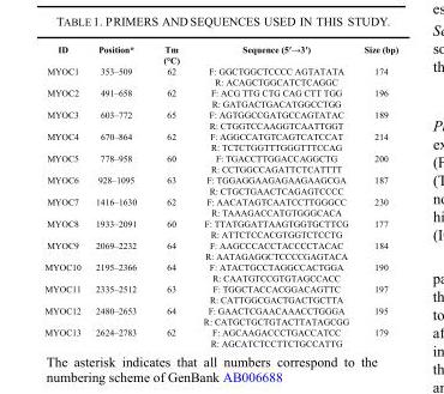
<table><thead><tr><td>ID</td><td>Position*</td><td>Tm (°C)</td><td>Sequence (5′→3′)</td><td>Size (bp)</td></tr></thead><tbody><tr><td rowspan="2">MYOC1</td><td>353–509</td><td>62</td><td>F: GGCTGGCTCCCC AGTATATA</td><td>174</td></tr><tr><td></td><td></td><td>R: ACAGCTGGCATCTCAGGC</td><td></td></tr><tr><td rowspan="2">MYOC2</td><td>491–658</td><td>62</td><td>F: ACG TTG CTG CAG CTT TGG</td><td>196</td></tr><tr><td></td><td></td><td>R: GATGACTGACATGGCCTGG</td><td></td></tr><tr><td rowspan="2">MYOC3</td><td>603–772</td><td>65</td><td>F: AGTGGCCGATGCCAGTATAC</td><td>189</td></tr><tr><td></td><td></td><td>R: CTGGTCCAAGGTCAATTGGT</td><td></td></tr><tr><td rowspan="2">MYOC4</td><td>670–864</td><td>62</td><td>F: AGGCCATGTCAGTCATCCAT</td><td>214</td></tr><tr><td></td><td></td><td>R: TCTCTGGTTTGGGTTTCCAG</td><td></td></tr><tr><td rowspan="2">MYOC5</td><td>778–958</td><td>60</td><td>F: TGACCTTGGACCAGGCTG</td><td>200</td></tr><tr><td></td><td></td><td>R: CCTGGCCAGATTCTCATTTT</td><td></td></tr><tr><td rowspan="2">MYOC6</td><td>928–1095</td><td>63</td><td>F: TGGAGGAAGAGAAGAAGCGA</td><td>187</td></tr><tr><td></td><td></td><td>R: CTGCTGAACTCAGAGTCCCC</td><td></td></tr><tr><td rowspan="2">MYOC7</td><td>1416–1630</td><td>62</td><td>F: AACATAGTCAATCCTTGGGCC</td><td>230</td></tr><tr><td></td><td></td><td>R: TAAAGACCATGTGGGCACA</td><td></td></tr><tr><td rowspan="2">MYOC8</td><td>1933–2091</td><td>60</td><td>F: TTATGGATTAAGTGGTGCTTCG</td><td>177</td></tr><tr><td></td><td></td><td>R: ATTCTCCACGTGGTCTCCTG</td><td></td></tr><tr><td rowspan="2">MYOC9</td><td>2069–2232</td><td>64</td><td>F: AAGCCCACCTACCCCTACAC</td><td>184</td></tr><tr><td></td><td></td><td>R: AATAGAGGCTCCCCGAGTACA</td><td></td></tr><tr><td rowspan="2">MYOC10</td><td>2195–2366</td><td>64</td><td>F: ATACTGCCTAGGCCACTGGA</td><td>190</td></tr><tr><td></td><td></td><td>R: CAATGTCCGTGTAGCCACC</td><td></td></tr><tr><td rowspan="2">MYOC11</td><td>2335–2512</td><td>63</td><td>F: TGGCTACCACGGACAGTTC</td><td>197</td></tr><tr><td></td><td></td><td>R: CATTGGCGACTGACTGCTTA</td><td></td></tr><tr><td rowspan="2">MYOC12</td><td>2480–2653</td><td>64</td><td>F: GAACTCGAACAAACCTGGGA</td><td>195</td></tr><tr><td></td><td></td><td>R: CATGCTGCTGTACTTATAGCGG</td><td></td></tr><tr><td rowspan="2">MYOC13</td><td>2624–2783</td><td>62</td><td>F: AGCAAGACCCTGACCATCC</td><td>179</td></tr><tr><td></td><td></td><td>R: AGCATCTCCTTCTGCCATTG</td><td></td></tr></tbody></table>